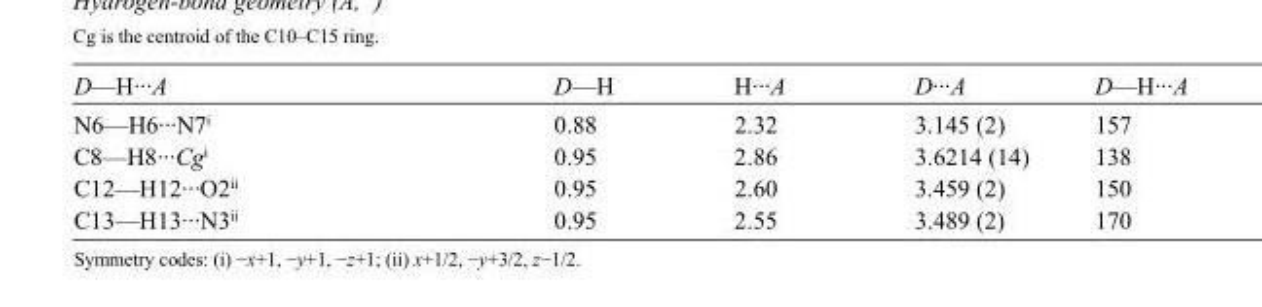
<table><tbody><tr><td>D—H···A</td><td>D—H</td><td>H···A</td><td>D···A</td><td>D—H···A</td></tr><tr><td>N6—H6···N7<sup>i</sup></td><td>0.88</td><td>2.32</td><td>3.145 (2)</td><td>157</td></tr><tr><td>C8—H8···Cg<sup>i</sup></td><td>0.95</td><td>2.86</td><td>3.6214 (14)</td><td>138</td></tr><tr><td>C12—H12···O2<sup>ii</sup></td><td>0.95</td><td>2.60</td><td>3.459 (2)</td><td>150</td></tr><tr><td>C13—H13···N3<sup>ii</sup></td><td>0.95</td><td>2.55</td><td>3.489 (2)</td><td>170</td></tr></tbody></table>